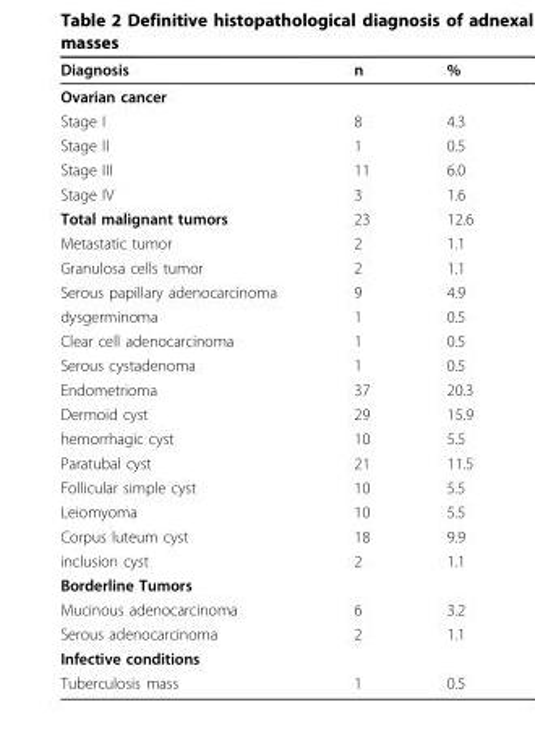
<table><thead><tr><td>Diagnosis</td><td>n</td><td>%</td></tr></thead><tbody><tr><td colspan="3">Ovarian cancer</td></tr><tr><td>Stage I</td><td>8</td><td>4.3</td></tr><tr><td>Stage II</td><td>1</td><td>0.5</td></tr><tr><td>Stage III</td><td>11</td><td>6.0</td></tr><tr><td>Stage IV</td><td>3</td><td>1.6</td></tr><tr><td>Total malignant tumors</td><td>23</td><td>12.6</td></tr><tr><td>Metastatic tumor</td><td>2</td><td>1.1</td></tr><tr><td>Granulosa cells tumor</td><td>2</td><td>1.1</td></tr><tr><td>Serous papillary adenocarcinoma</td><td>9</td><td>4.9</td></tr><tr><td>dysgerminoma</td><td>1</td><td>0.5</td></tr><tr><td>Clear cell adenocarcinoma</td><td>1</td><td>0.5</td></tr><tr><td>Serous cystadenoma</td><td>1</td><td>0.5</td></tr><tr><td>Endometrioma</td><td>37</td><td>20.3</td></tr><tr><td>Dermoid cyst</td><td>29</td><td>15.9</td></tr><tr><td>hemorrhagic cyst</td><td>10</td><td>5.5</td></tr><tr><td>Paratubal cyst</td><td>21</td><td>11.5</td></tr><tr><td>Follicular simple cyst</td><td>10</td><td>5.5</td></tr><tr><td>Leiomyoma</td><td>10</td><td>5.5</td></tr><tr><td>Corpus luteum cyst</td><td>18</td><td>9.9</td></tr><tr><td>inclusion cyst</td><td>2</td><td>1.1</td></tr><tr><td colspan="3">Borderline Tumors</td></tr><tr><td>Mucinous adenocarcinoma</td><td>6</td><td>3.2</td></tr><tr><td>Serous adenocarcinoma</td><td>2</td><td>1.1</td></tr><tr><td colspan="3">Infective conditions</td></tr><tr><td>Tuberculosis mass</td><td>1</td><td>0.5</td></tr></tbody></table>